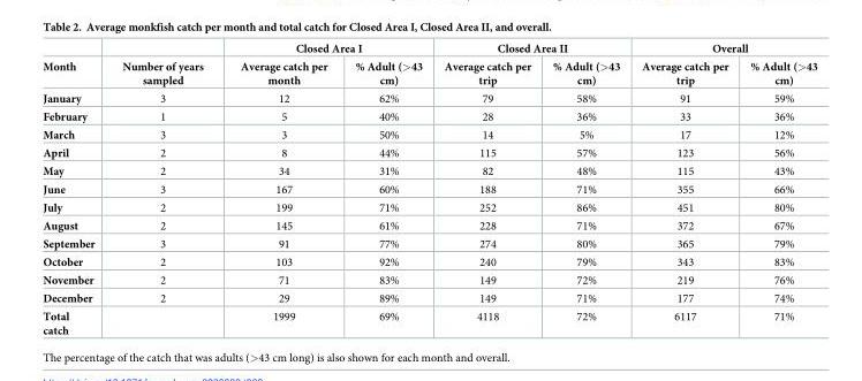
<table><thead><tr><td rowspan="2">Month</td><td rowspan="2">Number of years sampled</td><td colspan="2">Closed Area I</td><td colspan="2">Closed Area II</td><td colspan="2">Overall</td></tr><tr><td>Average catch per month</td><td>% Adult (&gt;43 cm)</td><td>Average catch per trip</td><td>% Adult (&gt;43 cm)</td><td>Average catch per trip</td><td>% Adult (&gt;43 cm)</td></tr></thead><tbody><tr><td>January</td><td>3</td><td>12</td><td>62%</td><td>79</td><td>58%</td><td>91</td><td>59%</td></tr><tr><td>February</td><td>1</td><td>5</td><td>40%</td><td>28</td><td>36%</td><td>33</td><td>36%</td></tr><tr><td>March</td><td>3</td><td>3</td><td>50%</td><td>14</td><td>5%</td><td>17</td><td>12%</td></tr><tr><td>April</td><td>2</td><td>8</td><td>44%</td><td>115</td><td>57%</td><td>123</td><td>56%</td></tr><tr><td>May</td><td>2</td><td>34</td><td>31%</td><td>82</td><td>48%</td><td>115</td><td>43%</td></tr><tr><td>June</td><td>3</td><td>167</td><td>60%</td><td>188</td><td>71%</td><td>355</td><td>66%</td></tr><tr><td>July</td><td>2</td><td>199</td><td>71%</td><td>252</td><td>86%</td><td>451</td><td>80%</td></tr><tr><td>August</td><td>2</td><td>145</td><td>61%</td><td>228</td><td>71%</td><td>372</td><td>67%</td></tr><tr><td>September</td><td>3</td><td>91</td><td>77%</td><td>274</td><td>80%</td><td>365</td><td>79%</td></tr><tr><td>October</td><td>2</td><td>103</td><td>92%</td><td>240</td><td>79%</td><td>343</td><td>83%</td></tr><tr><td>November</td><td>2</td><td>71</td><td>83%</td><td>149</td><td>72%</td><td>219</td><td>76%</td></tr><tr><td>December</td><td>2</td><td>29</td><td>89%</td><td>149</td><td>71%</td><td>177</td><td>74%</td></tr><tr><td>Total catch</td><td></td><td>1999</td><td>69%</td><td>4118</td><td>72%</td><td>6117</td><td>71%</td></tr></tbody></table>